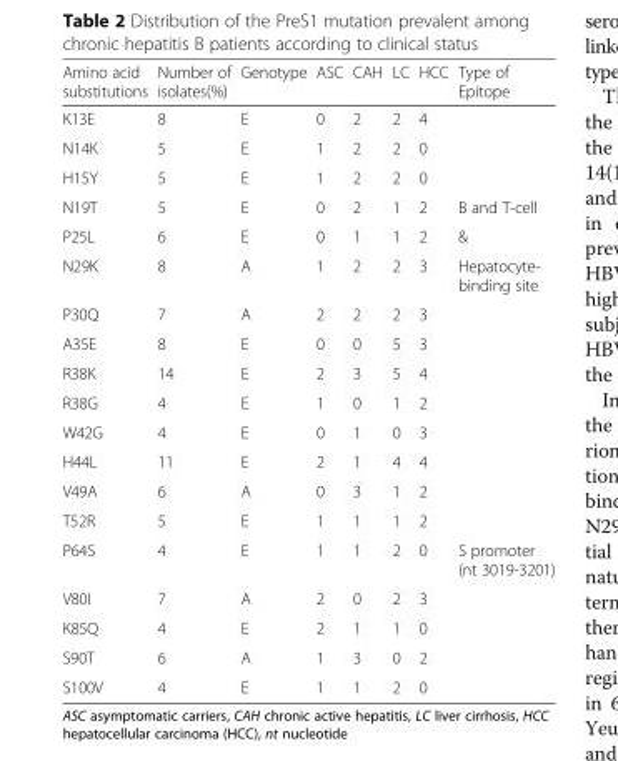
<table><thead><tr><td>Amino acid substitutions</td><td>Number of isolates(%)</td><td>Genotype</td><td>ASC</td><td>CAH</td><td>LC</td><td>HCC</td><td>Type of Epitope</td></tr></thead><tbody><tr><td>K13E</td><td>8</td><td>E</td><td>0</td><td>2</td><td>2</td><td>4</td><td></td></tr><tr><td>N14K</td><td>5</td><td>E</td><td>1</td><td>2</td><td>2</td><td>0</td><td></td></tr><tr><td>H15Y</td><td>5</td><td>E</td><td>1</td><td>2</td><td>2</td><td>0</td><td></td></tr><tr><td>N19T</td><td>5</td><td>E</td><td>0</td><td>2</td><td>1</td><td>2</td><td>B and T-cell</td></tr><tr><td>P25L</td><td>6</td><td>E</td><td>0</td><td>1</td><td>1</td><td>2</td><td>&amp;</td></tr><tr><td>N29K</td><td>8</td><td>A</td><td>1</td><td>2</td><td>2</td><td>3</td><td>Hepatocyte- binding site</td></tr><tr><td>P30Q</td><td>7</td><td>A</td><td>2</td><td>2</td><td>2</td><td>3</td><td></td></tr><tr><td>A35E</td><td>8</td><td>E</td><td>0</td><td>0</td><td>5</td><td>3</td><td></td></tr><tr><td>R38K</td><td>14</td><td>E</td><td>2</td><td>3</td><td>5</td><td>4</td><td></td></tr><tr><td>R38G</td><td>4</td><td>E</td><td>1</td><td>0</td><td>1</td><td>2</td><td></td></tr><tr><td>W42G</td><td>4</td><td>E</td><td>0</td><td>1</td><td>0</td><td>3</td><td></td></tr><tr><td>H44L</td><td>11</td><td>E</td><td>2</td><td>1</td><td>4</td><td>4</td><td></td></tr><tr><td>V49A</td><td>6</td><td>A</td><td>0</td><td>3</td><td>1</td><td>2</td><td></td></tr><tr><td>T52R</td><td>5</td><td>E</td><td>1</td><td>1</td><td>1</td><td>2</td><td></td></tr><tr><td>P64S</td><td>4</td><td>E</td><td>1</td><td>1</td><td>2</td><td>0</td><td>S promoter (nt 3019-3201)</td></tr><tr><td>V80I</td><td>7</td><td>A</td><td>2</td><td>0</td><td>2</td><td>3</td><td></td></tr><tr><td>K85Q</td><td>4</td><td>E</td><td>2</td><td>1</td><td>1</td><td>0</td><td></td></tr><tr><td>S90T</td><td>6</td><td>A</td><td>1</td><td>3</td><td>0</td><td>2</td><td></td></tr><tr><td>S100V</td><td>4</td><td>E</td><td>1</td><td>1</td><td>2</td><td>0</td><td></td></tr></tbody></table>